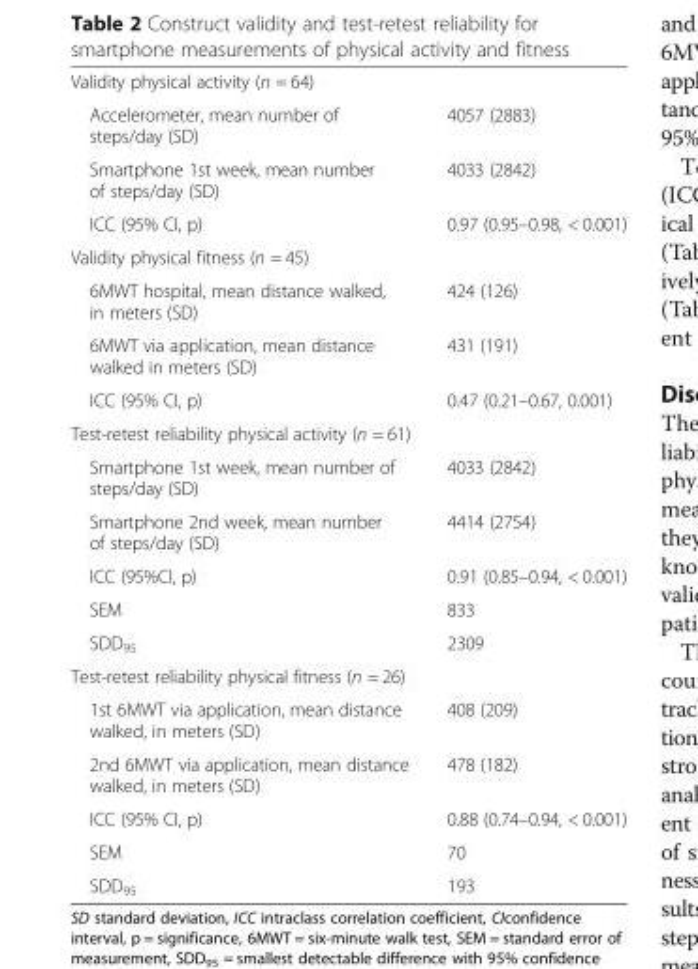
<table><tbody><tr><td colspan="2">Validity physical activity (n = 64)</td></tr><tr><td>Accelerometer, mean number of steps/day (SD)</td><td>4057 (2883)</td></tr><tr><td>Smartphone 1st week, mean number of steps/day (SD)</td><td>4033 (2842)</td></tr><tr><td>ICC (95% CI, p)</td><td>0.97 (0.95–0.98, &lt; 0.001)</td></tr><tr><td colspan="2">Validity physical fitness (n = 45)</td></tr><tr><td>6MWT hospital, mean distance walked, in meters (SD)</td><td>424 (126)</td></tr><tr><td>6MWT via application, mean distance walked in meters (SD)</td><td>431 (191)</td></tr><tr><td>ICC (95% CI, p)</td><td>0.47 (0.21–0.67, 0.001)</td></tr><tr><td colspan="2">Test-retest reliability physical activity (n = 61)</td></tr><tr><td>Smartphone 1st week, mean number of steps/day (SD)</td><td>4033 (2842)</td></tr><tr><td>Smartphone 2nd week, mean number of steps/day (SD)</td><td>4414 (2754)</td></tr><tr><td>ICC (95%CI, p)</td><td>0.91 (0.85–0.94, &lt; 0.001)</td></tr><tr><td>SEM</td><td>833</td></tr><tr><td>SDD<sub>95</sub></td><td>2309</td></tr><tr><td colspan="2">Test-retest reliability physical fitness (n = 26)</td></tr><tr><td>1st 6MWT via application, mean distance walked, in meters (SD)</td><td>408 (209)</td></tr><tr><td>2nd 6MWT via application, mean distance walked, in meters (SD)</td><td>478 (182)</td></tr><tr><td>ICC (95% CI, p)</td><td>0.88 (0.74–0.94, &lt; 0.001)</td></tr><tr><td>SEM</td><td>70</td></tr><tr><td>SDD<sub>95</sub></td><td>193</td></tr></tbody></table>